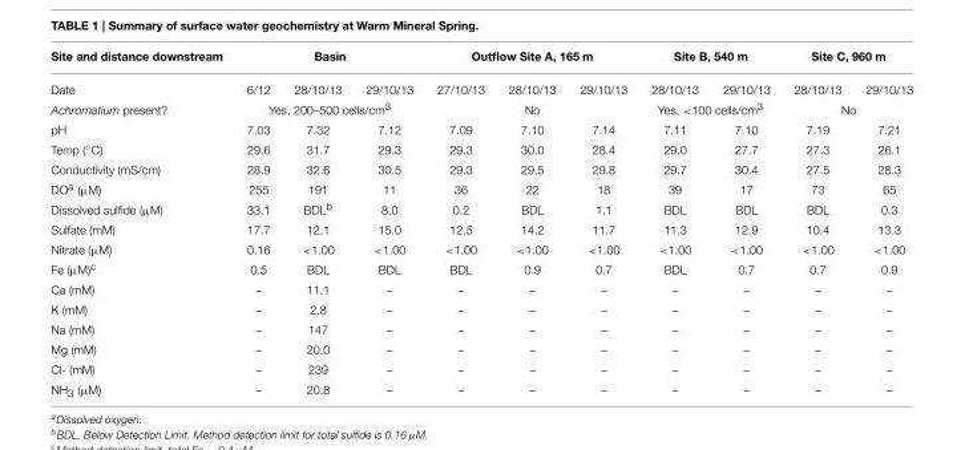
<table><thead><tr><td rowspan="2">Site and distance downstream Date</td><td colspan="3">Basin</td><td colspan="3">Outflow Site A, 165 m</td><td colspan="2">Site B, 540 m</td><td colspan="2">Site C, 960 m</td></tr><tr><td>6/12</td><td>28/10/13</td><td>29/10/13</td><td>27/10/13</td><td>28/10/13</td><td>29/10/13</td><td>28/10/13</td><td>29/10/13</td><td>28/10/13</td><td>29/10/13</td></tr></thead><tbody><tr><td>Achromatium present?</td><td colspan="3">Yes, 200–500 cells/cm<sup>3</sup></td><td colspan="3">No</td><td colspan="2">Yes, &lt;100 cells/cm<sup>3</sup></td><td colspan="2">No</td></tr><tr><td>pH</td><td>7.03</td><td>7.32</td><td>7.12</td><td>7.09</td><td>7.10</td><td>7.14</td><td>7.11</td><td>7.10</td><td>7.19</td><td>7.21</td></tr><tr><td>Temp (◦C)</td><td>29.6</td><td>31.7</td><td>29.3</td><td>29.3</td><td>30.0</td><td>28.4</td><td>29.0</td><td>27.7</td><td>27.3</td><td>26.1</td></tr><tr><td>Conductivity (mS/cm)</td><td>28.9</td><td>32.6</td><td>30.5</td><td>29.3</td><td>29.5</td><td>29.8</td><td>29.7</td><td>30.4</td><td>27.5</td><td>28.3</td></tr><tr><td>DO<sup>a</sup> (µM)</td><td>255</td><td>191</td><td>11</td><td>36</td><td>22</td><td>18</td><td>39</td><td>17</td><td>73</td><td>65</td></tr><tr><td>Dissolved sulfide (µM)</td><td>33.1</td><td>BDL<sup>b</sup></td><td>8.0</td><td>0.2</td><td>BDL</td><td>1.1</td><td>BDL</td><td>BDL</td><td>BDL</td><td>0.3</td></tr><tr><td>Sulfate (mM)</td><td>17.7</td><td>12.1</td><td>15.0</td><td>12.5</td><td>14.2</td><td>11.7</td><td>11.3</td><td>12.9</td><td>10.4</td><td>13.3</td></tr><tr><td>Nitrate (µM)</td><td>0.16</td><td>&lt;1.00</td><td>&lt;1.00</td><td>&lt;1.00</td><td>&lt;1.00</td><td>&lt;1.00</td><td>&lt;1.00</td><td>&lt;1.00</td><td>&lt;1.00</td><td>&lt;1.00</td></tr><tr><td>Fe (µM)<sup>c</sup></td><td>0.5</td><td>BDL</td><td>BDL</td><td>BDL</td><td>0.9</td><td>0.7</td><td>BDL</td><td>0.7</td><td>0.7</td><td>0.9</td></tr><tr><td>Ca (mM)</td><td>–</td><td>11.1</td><td>–</td><td>–</td><td>–</td><td>–</td><td>–</td><td>–</td><td>–</td><td>–</td></tr><tr><td>K (mM)</td><td>–</td><td>2.8</td><td>–</td><td>–</td><td>–</td><td>–</td><td>–</td><td>–</td><td>–</td><td>–</td></tr><tr><td>Na (mM)</td><td>–</td><td>147</td><td>–</td><td>–</td><td>–</td><td>–</td><td>–</td><td>–</td><td>–</td><td>–</td></tr><tr><td>Mg (mM)</td><td>–</td><td>20.0</td><td>–</td><td>–</td><td>–</td><td>–</td><td>–</td><td>–</td><td>–</td><td>–</td></tr><tr><td>Cl- (mM)</td><td>–</td><td>239</td><td>–</td><td>–</td><td>–</td><td>–</td><td>–</td><td>–</td><td>–</td><td>–</td></tr><tr><td>NH<sub>3</sub> (µM)</td><td>–</td><td>20.8</td><td>–</td><td>–</td><td>–</td><td>–</td><td>–</td><td>–</td><td>–</td><td>–</td></tr></tbody></table>